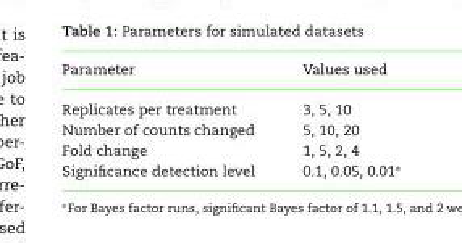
<table><thead><tr><td>Parameter</td><td>Values used</td></tr></thead><tbody><tr><td>Replicates per treatment</td><td>3, 5, 10</td></tr><tr><td>Number of counts changed</td><td>5, 10, 20</td></tr><tr><td>Fold change</td><td>1, 5, 2, 4</td></tr><tr><td>Significance detection level</td><td>0.1, 0.05, 0.01∗</td></tr></tbody></table>